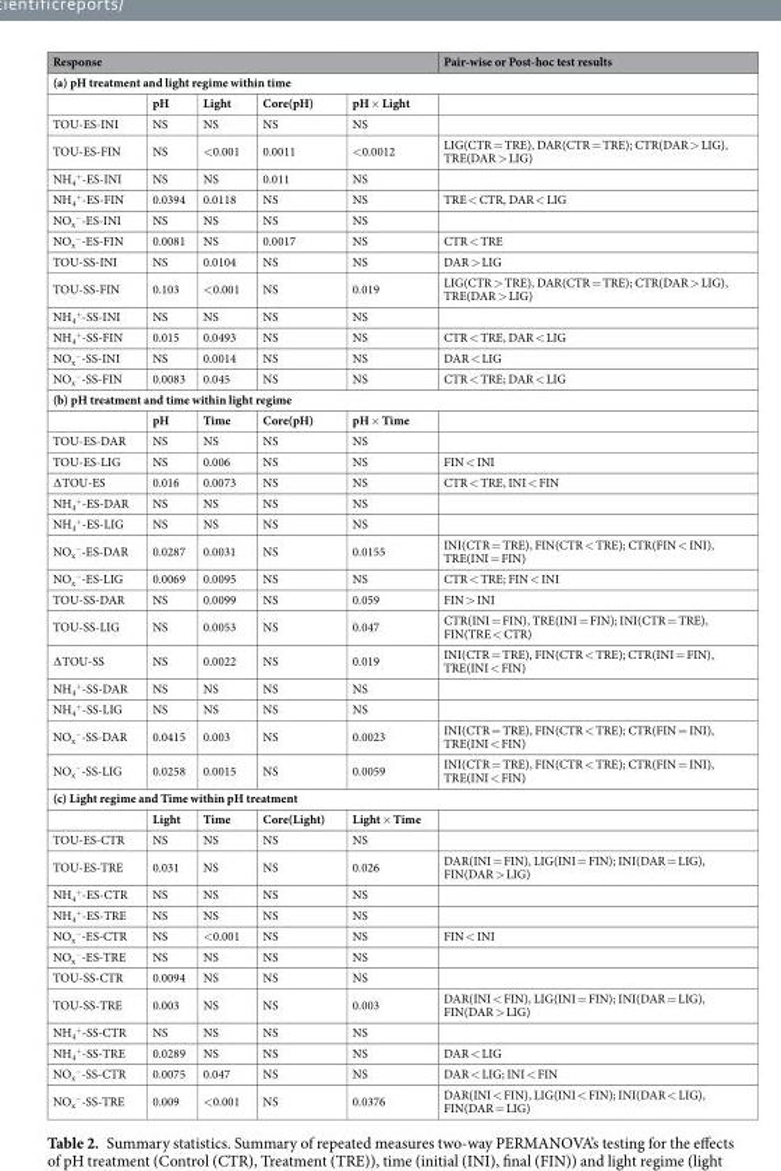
<table><thead><tr><td colspan="5">Response</td><td>Pair-wise or Post-hoc test results</td></tr><tr><td colspan="6">(a) pH treatment and light regime within time</td></tr><tr><td></td><td>pH</td><td>Light</td><td>Core(pH)</td><td>pH × Light</td><td></td></tr></thead><tbody><tr><td>TOU-ES-INI</td><td>NS</td><td>NS</td><td>NS</td><td>NS</td><td></td></tr><tr><td>TOU-ES-FIN</td><td>NS</td><td>&lt;0.001</td><td>0.0011</td><td>&lt;0.0012</td><td>LIG(CTR = TRE), DAR(CTR = TRE); CTR(DAR &gt; LIG), TRE(DAR &gt; LIG)</td></tr><tr><td>NH<sub>4</sub> <sup>+</sup>-ES-INI</td><td>NS</td><td>NS</td><td>0.011</td><td>NS</td><td></td></tr><tr><td>NH<sub>4</sub> <sup>+</sup>-ES-FIN</td><td>0.0394</td><td>0.0118</td><td>NS</td><td>NS</td><td>TRE &lt; CTR, DAR &lt; LIG</td></tr><tr><td>NO<sub>x</sub> <sup>−</sup>-ES-INI</td><td>NS</td><td>NS</td><td>NS</td><td>NS</td><td></td></tr><tr><td>NO<sub>x</sub> <sup>−</sup>-ES-FIN</td><td>0.0081</td><td>NS</td><td>0.0017</td><td>NS</td><td>CTR &lt; TRE</td></tr><tr><td>TOU-SS-INI</td><td>NS</td><td>0.0104</td><td>NS</td><td>NS</td><td>DAR &gt; LIG</td></tr><tr><td>TOU-SS-FIN</td><td>0.103</td><td>&lt;0.001</td><td>NS</td><td>0.019</td><td>LIG(CTR &gt; TRE), DAR(CTR = TRE); CTR(DAR &gt; LIG), TRE(DAR &gt; LIG)</td></tr><tr><td>NH<sub>4</sub> <sup>+</sup>-SS-INI</td><td>NS</td><td>NS</td><td>NS</td><td>NS</td><td></td></tr><tr><td>NH<sub>4</sub> <sup>+</sup>-SS-FIN</td><td>0.015</td><td>0.0493</td><td>NS</td><td>NS</td><td>CTR &lt; TRE, DAR &lt; LIG</td></tr><tr><td>NO<sub>x</sub> <sup>−</sup>-SS-INI</td><td>NS</td><td>0.0014</td><td>NS</td><td>NS</td><td>DAR &lt; LIG</td></tr><tr><td>NO<sub>x</sub> <sup>−</sup>-SS-FIN</td><td>0.0083</td><td>0.045</td><td>NS</td><td>NS</td><td>CTR &lt; TRE; DAR &lt; LIG</td></tr><tr><td colspan="6">(b) pH treatment and time within light regime</td></tr><tr><td></td><td>pH</td><td>Time</td><td>Core(pH)</td><td>pH × Time</td><td></td></tr><tr><td>TOU-ES-DAR</td><td>NS</td><td>NS</td><td>NS</td><td>NS</td><td></td></tr><tr><td>TOU-ES-LIG</td><td>NS</td><td>0.006</td><td>NS</td><td>NS</td><td>FIN &lt; INI</td></tr><tr><td>∆TOU-ES</td><td>0.016</td><td>0.0073</td><td>NS</td><td>NS</td><td>CTR &lt; TRE, INI &lt; FIN</td></tr><tr><td>NH<sub>4</sub> <sup>+</sup>-ES-DAR</td><td>NS</td><td>NS</td><td>NS</td><td>NS</td><td></td></tr><tr><td>NH<sub>4</sub> <sup>+</sup>-ES-LIG</td><td>NS</td><td>NS</td><td>NS</td><td>NS</td><td></td></tr><tr><td>NO<sub>x</sub> <sup>−</sup>-ES-DAR</td><td>0.0287</td><td>0.0031</td><td>NS</td><td>0.0155</td><td>INI(CTR = TRE), FIN(CTR &lt; TRE); CTR(FIN &lt; INI), TRE(INI = FIN)</td></tr><tr><td>NO<sub>x</sub> <sup>−</sup>-ES-LIG</td><td>0.0069</td><td>0.0095</td><td>NS</td><td>NS</td><td>CTR &lt; TRE; FIN &lt; INI</td></tr><tr><td>TOU-SS-DAR</td><td>NS</td><td>0.0099</td><td>NS</td><td>0.059</td><td>FIN &gt; INI</td></tr><tr><td>TOU-SS-LIG</td><td>NS</td><td>0.0053</td><td>NS</td><td>0.047</td><td>CTR(INI = FIN), TRE(INI = FIN); INI(CTR = TRE), FIN(TRE &lt; CTR)</td></tr><tr><td>∆TOU-SS</td><td>NS</td><td>0.0022</td><td>NS</td><td>0.019</td><td>INI(CTR = TRE), FIN(CTR &lt; TRE); CTR(INI = FIN), TRE(INI &lt; FIN)</td></tr><tr><td>NH<sub>4</sub> <sup>+</sup>-SS-DAR</td><td>NS</td><td>NS</td><td>NS</td><td>NS</td><td></td></tr><tr><td>NH<sub>4</sub> <sup>+</sup>-SS-LIG</td><td>NS</td><td>NS</td><td>NS</td><td>NS</td><td></td></tr><tr><td>NO<sub>x</sub> <sup>−</sup>-SS-DAR</td><td>0.0415</td><td>0.003</td><td>NS</td><td>0.0023</td><td>INI(CTR = TRE), FIN(CTR &lt; TRE); CTR(FIN = INI), TRE(INI &lt; FIN)</td></tr><tr><td>NO<sub>x</sub> <sup>−</sup>-SS-LIG</td><td>0.0258</td><td>0.0015</td><td>NS</td><td>0.0059</td><td>INI(CTR = TRE), FIN(CTR &lt; TRE); CTR(FIN = INI), TRE(INI &lt; FIN)</td></tr><tr><td colspan="6">(c) Light regime and Time within pH treatment</td></tr><tr><td></td><td>Light</td><td>Time</td><td>Core(Light)</td><td>Light × Time</td><td></td></tr><tr><td>TOU-ES-CTR</td><td>NS</td><td>NS</td><td>NS</td><td>NS</td><td></td></tr><tr><td>TOU-ES-TRE</td><td>0.031</td><td>NS</td><td>NS</td><td>0.026</td><td>DAR(INI = FIN), LIG(INI = FIN); INI(DAR = LIG), FIN(DAR &gt; LIG)</td></tr><tr><td>NH<sub>4</sub> <sup>+</sup>-ES-CTR</td><td>NS</td><td>NS</td><td>NS</td><td>NS</td><td></td></tr><tr><td>NH<sub>4</sub> <sup>+</sup>-ES-TRE</td><td>NS</td><td>NS</td><td>NS</td><td>NS</td><td></td></tr><tr><td>NO<sub>x</sub> <sup>−</sup>-ES-CTR</td><td>NS</td><td>&lt;0.001</td><td>NS</td><td>NS</td><td>FIN &lt; INI</td></tr><tr><td>NO<sub>x</sub> <sup>−</sup>-ES-TRE</td><td>NS</td><td>NS</td><td>NS</td><td>NS</td><td></td></tr><tr><td>TOU-SS-CTR</td><td>0.0094</td><td>NS</td><td>NS</td><td>NS</td><td></td></tr><tr><td>TOU-SS-TRE</td><td>0.003</td><td>NS</td><td>NS</td><td>0.003</td><td>DAR(INI &lt; FIN), LIG(INI = FIN); INI(DAR = LIG), FIN(DAR &gt; LIG)</td></tr><tr><td>NH<sub>4</sub> <sup>+</sup>-SS-CTR</td><td>NS</td><td>NS</td><td>NS</td><td>NS</td><td></td></tr><tr><td>NH<sub>4</sub> <sup>+</sup>-SS-TRE</td><td>0.0289</td><td>NS</td><td>NS</td><td>NS</td><td>DAR &lt; LIG</td></tr><tr><td>NO<sub>x</sub> <sup>−</sup>-SS-CTR</td><td>0.0075</td><td>0.047</td><td>NS</td><td>NS</td><td>DAR &lt; LIG; INI &lt; FIN</td></tr><tr><td>NO<sub>x</sub> <sup>−</sup>-SS-TRE</td><td>0.009</td><td>&lt;0.001</td><td>NS</td><td>0.0376</td><td>DAR(INI &lt; FIN), LIG(INI &lt; FIN); INI(DAR &lt; LIG), FIN(DAR = LIG)</td></tr></tbody></table>